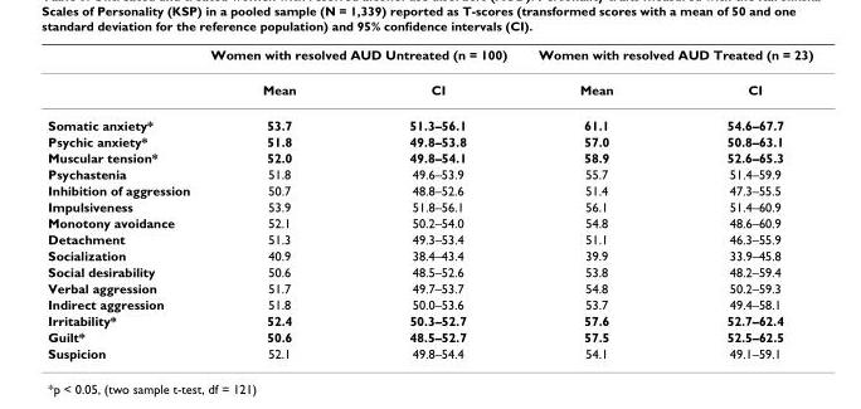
<table><thead><tr><td rowspan="2"></td><td colspan="2">Women with resolved AUD Untreated (n = 100)</td><td colspan="2">Women with resolved AUD Treated (n = 23)</td></tr><tr><td>Mean</td><td>CI</td><td>Mean</td><td>CI</td></tr></thead><tbody><tr><td>Somatic anxiety*</td><td>53.7</td><td>51.3–56.1</td><td>61.1</td><td>54.6–67.7</td></tr><tr><td>Psychic anxiety*</td><td>51.8</td><td>49.8–53.8</td><td>57.0</td><td>50.8–63.1</td></tr><tr><td>Muscular tension*</td><td>52.0</td><td>49.8–54.1</td><td>58.9</td><td>52.6–65.3</td></tr><tr><td>Psychastenia</td><td>51.8</td><td>49.6–53.9</td><td>55.7</td><td>51.4–59.9</td></tr><tr><td>Inhibition of aggression</td><td>50.7</td><td>48.8–52.6</td><td>51.4</td><td>47.3–55.5</td></tr><tr><td>Impulsiveness</td><td>53.9</td><td>51.8–56.1</td><td>56.1</td><td>51.4–60.9</td></tr><tr><td>Monotony avoidance</td><td>52.1</td><td>50.2–54.0</td><td>54.8</td><td>48.6–60.9</td></tr><tr><td>Detachment</td><td>51.3</td><td>49.3–53.4</td><td>51.1</td><td>46.3–55.9</td></tr><tr><td>Socialization</td><td>40.9</td><td>38.4–43.4</td><td>39.9</td><td>33.9–45.8</td></tr><tr><td>Social desirability</td><td>50.6</td><td>48.5–52.6</td><td>53.8</td><td>48.2–59.4</td></tr><tr><td>Verbal aggression</td><td>51.7</td><td>49.7–53.7</td><td>54.8</td><td>50.2–59.3</td></tr><tr><td>Indirect aggression</td><td>51.8</td><td>50.0–53.6</td><td>53.7</td><td>49.4–58.1</td></tr><tr><td>Irritability*</td><td>52.4</td><td>50.3–52.7</td><td>57.6</td><td>52.7–62.4</td></tr><tr><td>Guilt*</td><td>50.6</td><td>48.5–52.7</td><td>57.5</td><td>52.5–62.5</td></tr><tr><td>Suspicion</td><td>52.1</td><td>49.8–54.4</td><td>54.1</td><td>49.1–59.1</td></tr></tbody></table>